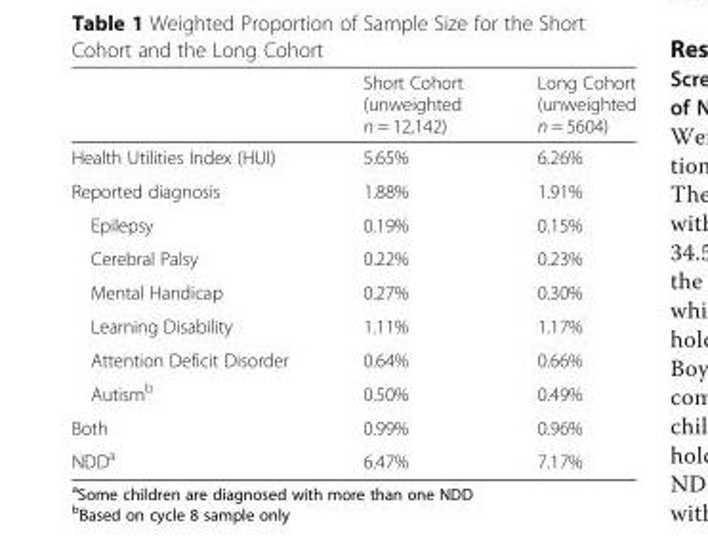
<table><thead><tr><td></td><td>Short Cohort (unweighted n = 12,142)</td><td>Long Cohort (unweighted n = 5604)</td></tr></thead><tbody><tr><td>Health Utilities Index (HUI)</td><td>5.65%</td><td>6.26%</td></tr><tr><td>Reported diagnosis</td><td>1.88%</td><td>1.91%</td></tr><tr><td>Epilepsy</td><td>0.19%</td><td>0.15%</td></tr><tr><td>Cerebral Palsy</td><td>0.22%</td><td>0.23%</td></tr><tr><td>Mental Handicap</td><td>0.27%</td><td>0.30%</td></tr><tr><td>Learning Disability</td><td>1.11%</td><td>1.17%</td></tr><tr><td>Attention Deficit Disorder</td><td>0.64%</td><td>0.66%</td></tr><tr><td>Autism<sup>b</sup></td><td>0.50%</td><td>0.49%</td></tr><tr><td>Both</td><td>0.99%</td><td>0.96%</td></tr><tr><td>NDD<sup>a</sup></td><td>6.47%</td><td>7.17%</td></tr></tbody></table>